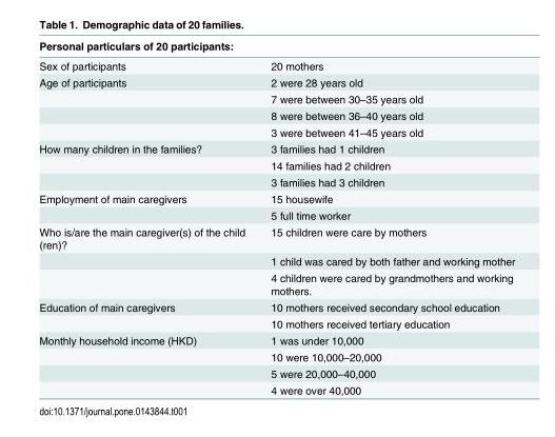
<table><thead><tr><td colspan="2">Personal particulars of 20 participants:</td></tr><tr><td>Sex of participants</td><td>20 mothers</td></tr></thead><tbody><tr><td rowspan="4">Age of participants</td><td>2 were 28 years old</td></tr><tr><td>7 were between 30–35 years old</td></tr><tr><td>8 were between 36–40 years old</td></tr><tr><td>3 were between 41–45 years old</td></tr><tr><td rowspan="3">How many children in the families?</td><td>3 families had 1 children</td></tr><tr><td>14 families had 2 children</td></tr><tr><td>3 families had 3 children</td></tr><tr><td rowspan="2">Employment of main caregivers</td><td>15 housewife</td></tr><tr><td>5 full time worker</td></tr><tr><td rowspan="3">Who is/are the main caregiver(s) of the child (ren)?</td><td>15 children were care by mothers</td></tr><tr><td>1 child was cared by both father and working mother</td></tr><tr><td>4 children were cared by grandmothers and working mothers.</td></tr><tr><td rowspan="2">Education of main caregivers</td><td>10 mothers received secondary school education</td></tr><tr><td>10 mothers received tertiary education</td></tr><tr><td rowspan="4">Monthly household income (HKD)</td><td>1 was under 10,000</td></tr><tr><td>10 were 10,000–20,000</td></tr><tr><td>5 were 20,000–40,000</td></tr><tr><td>4 were over 40,000</td></tr></tbody></table>